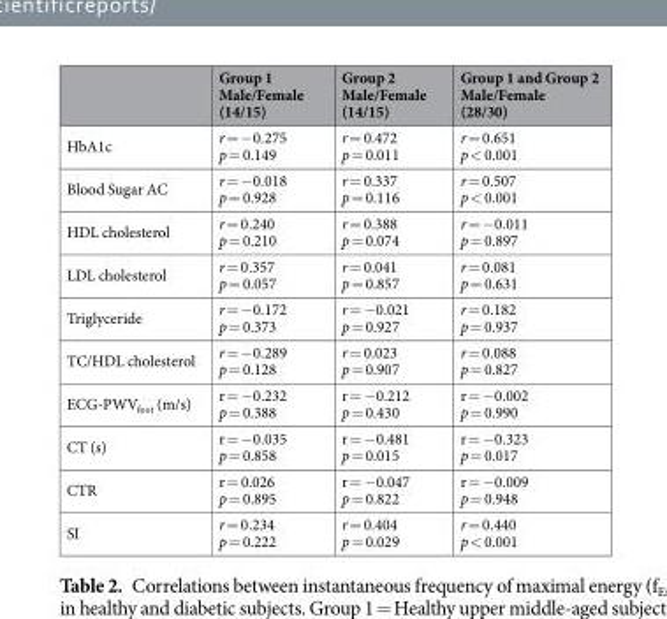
<table><thead><tr><td></td><td>Group 1 Male/Female (14/15)</td><td>Group 2 Male/Female (14/15)</td><td>Group 1 and Group 2 Male/Female (28/30)</td></tr></thead><tbody><tr><td>HbA1c</td><td>r = −0.275 p = 0.149</td><td>r = 0.472 p = 0.011</td><td>r = 0.651 p &lt; 0.001</td></tr><tr><td>Blood Sugar AC</td><td>r = −0.018 p = 0.928</td><td>r = 0.337 p = 0.116</td><td>r = 0.507 p &lt; 0.001</td></tr><tr><td>HDL cholesterol</td><td>r = 0.240 p = 0.210</td><td>r = 0.388 p = 0.074</td><td>r = −0.011 p = 0.897</td></tr><tr><td>LDL cholesterol</td><td>r = 0.357 p = 0.057</td><td>r = 0.041 p = 0.857</td><td>r = 0.081 p = 0.631</td></tr><tr><td>Triglyceride</td><td>r = −0.172 p = 0.373</td><td>r = −0.021 p = 0.927</td><td>r = 0.182 p = 0.937</td></tr><tr><td>TC/HDL cholesterol</td><td>r = −0.289 p = 0.128</td><td>r = 0.023 p = 0.907</td><td>r = 0.088 p = 0.827</td></tr><tr><td>ECG-PWV<sub>foot</sub> (m/s)</td><td>r = −0.232 p = 0.388</td><td>r = −0.212 p = 0.430</td><td>r = −0.002 p = 0.990</td></tr><tr><td>CT (s)</td><td>r = −0.035 p = 0.858</td><td>r = −0.481 p = 0.015</td><td>r = −0.323 p = 0.017</td></tr><tr><td>CTR</td><td>r = 0.026 p = 0.895</td><td>r = −0.047 p = 0.822</td><td>r = −0.009 p = 0.948</td></tr><tr><td>SI</td><td>r = 0.234 p = 0.222</td><td>r = 0.404 p = 0.029</td><td>r = 0.440 p &lt; 0.001</td></tr></tbody></table>